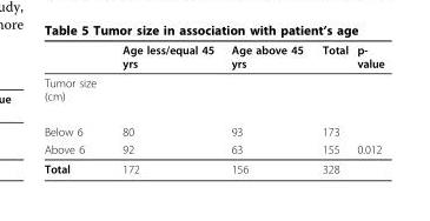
<table><thead><tr><td></td><td>Age less/equal 45 yrs</td><td>Age above 45 yrs</td><td>Total</td><td>p- value</td></tr></thead><tbody><tr><td colspan="5">Tumor size (cm)</td></tr><tr><td>Below 6</td><td>80</td><td>93</td><td>173</td><td></td></tr><tr><td>Above 6</td><td>92</td><td>63</td><td>155</td><td>0.012</td></tr><tr><td>Total</td><td>172</td><td>156</td><td>328</td><td></td></tr></tbody></table>